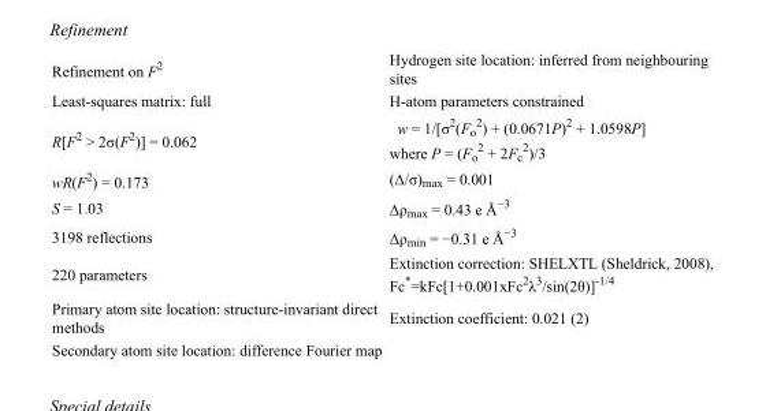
<table><tbody><tr><td>Refinement on F<sup>2</sup></td><td>Hydrogen site location: inferred from neighbouring sites</td></tr><tr><td>Least-squares matrix: full</td><td>H-atom parameters constrained</td></tr><tr><td>R[F<sup>2</sup> &gt; 2σ(F<sup>2</sup>)] = 0.062</td><td>w = 1/[σ<sup>2</sup>(F<sub>o</sub> <sup>2</sup>) + (0.0671P)<sup>2</sup> + 1.0598P] where P = (F<sub>o</sub> <sup>2</sup> + 2F<sub>c</sub> <sup>2</sup>)/3</td></tr><tr><td>wR(F<sup>2</sup>) = 0.173</td><td>(Δ/σ)<sub>max</sub> = 0.001</td></tr><tr><td>S = 1.03</td><td>Δρ<sub>max</sub> = 0.43 e Å<sup>−3</sup></td></tr><tr><td>3198 reflections</td><td>Δρ<sub>min</sub> = −0.31 e Å<sup>−3</sup></td></tr><tr><td>220 parameters</td><td>Extinction correction: SHELXTL (Sheldrick, 2008), Fc*=kFc[1+0.001xFc<sup>2</sup>λ<sup>3</sup>/sin(2θ)]<sup>-1/4</sup></td></tr><tr><td>Primary atom site location: structure-invariant direct methods</td><td>Extinction coefficient: 0.021 (2)</td></tr><tr><td>Secondary atom site location: difference Fourier map</td><td></td></tr></tbody></table>